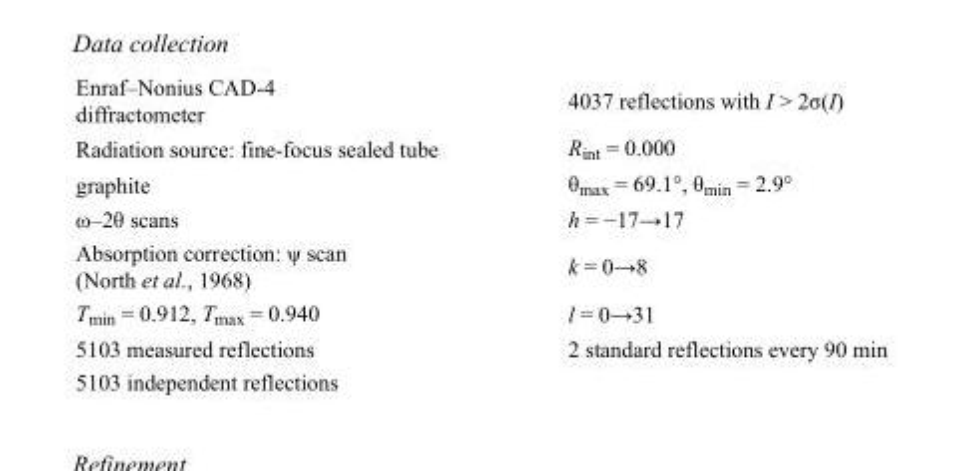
<table><tbody><tr><td>Enraf–Nonius CAD-4 diffractometer</td><td>4037 reflections with I &gt; 2σ(I)</td></tr><tr><td>Radiation source: fine-focus sealed tube</td><td>R<sub>int</sub> = 0.000</td></tr><tr><td>graphite</td><td>θ<sub>max</sub> = 69.1°, θ<sub>min</sub> = 2.9°</td></tr><tr><td>ω–2θ scans</td><td>h = −17→17</td></tr><tr><td>Absorption correction: ψ scan (North et al., 1968)</td><td>k = 0→8</td></tr><tr><td>T<sub>min</sub> = 0.912, T<sub>max</sub> = 0.940</td><td>l = 0→31</td></tr><tr><td>5103 measured reflections</td><td>2 standard reflections every 90 min</td></tr><tr><td>5103 independent reflections</td><td></td></tr></tbody></table>